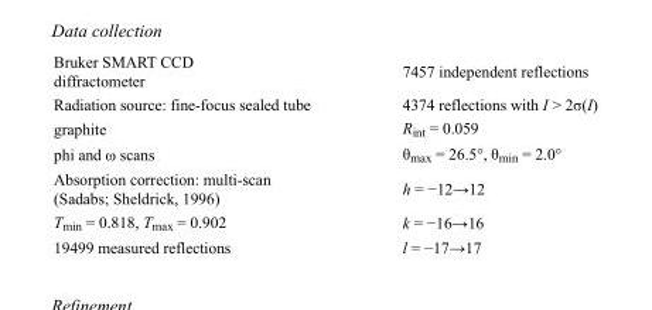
<table><tbody><tr><td>Bruker SMART CCD diffractometer</td><td>7457 independent reflections</td></tr><tr><td>Radiation source: fine-focus sealed tube</td><td>4374 reflections with I &gt; 2σ(I)</td></tr><tr><td>graphite</td><td>R<sub>int</sub> = 0.059</td></tr><tr><td>phi and ω scans</td><td>θ<sub>max</sub> = 26.5°, θ<sub>min</sub> = 2.0°</td></tr><tr><td>Absorption correction: multi-scan (Sadabs; Sheldrick, 1996)</td><td>h = −12→12</td></tr><tr><td>T<sub>min</sub> = 0.818, T<sub>max</sub> = 0.902</td><td>k = −16→16</td></tr><tr><td>19499 measured reflections</td><td>l = −17→17</td></tr></tbody></table>